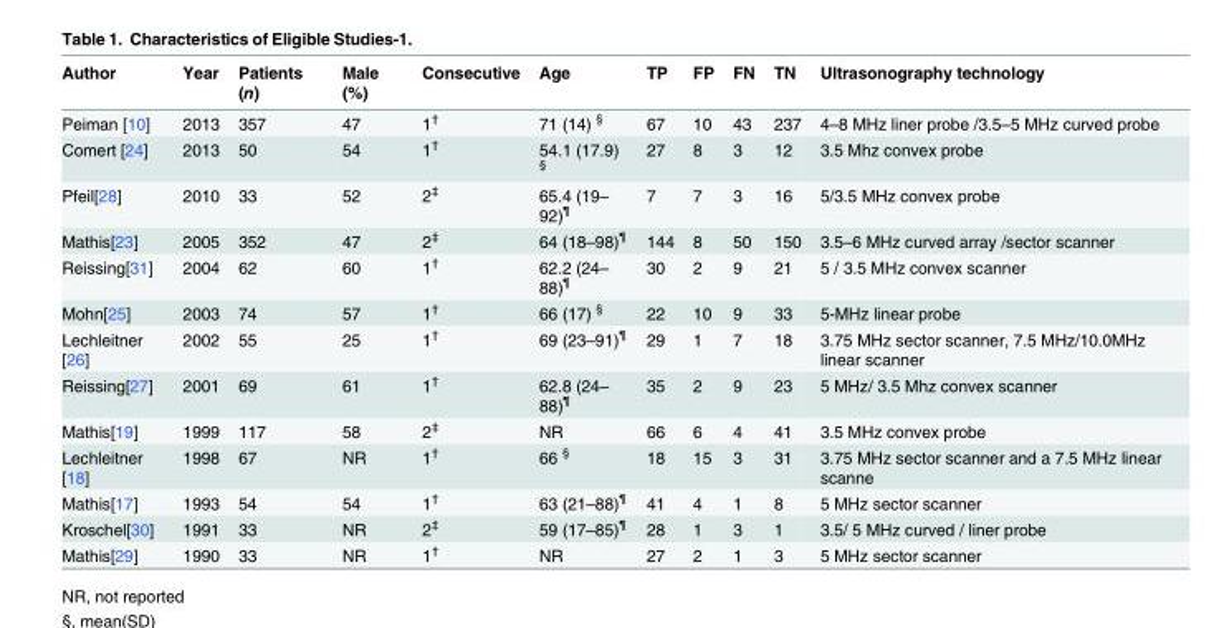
<table><thead><tr><td>Author</td><td>Year</td><td>Patients (n)</td><td>Male (%)</td><td>Consecutive</td><td>Age</td><td>TP</td><td>FP</td><td>FN</td><td>TN</td><td>Ultrasonography technology</td></tr></thead><tbody><tr><td>Peiman [10]</td><td>2013</td><td>357</td><td>47</td><td>1<sup>†</sup></td><td>71 (14) <sup>§</sup></td><td>67</td><td>10</td><td>43</td><td>237</td><td>4–8 MHz liner probe /3.5–5 MHz curved probe</td></tr><tr><td>Comert [24]</td><td>2013</td><td>50</td><td>54</td><td>1<sup>†</sup></td><td>54.1 (17.9) <sup>§</sup></td><td>27</td><td>8</td><td>3</td><td>12</td><td>3.5 Mhz convex probe</td></tr><tr><td>Pfeil[28]</td><td>2010</td><td>33</td><td>52</td><td>2<sup>‡</sup></td><td>65.4 (19– 92)<sup>¶</sup></td><td>7</td><td>7</td><td>3</td><td>16</td><td>5/3.5 MHz convex probe</td></tr><tr><td>Mathis[23]</td><td>2005</td><td>352</td><td>47</td><td>2<sup>‡</sup></td><td>64 (18–98)<sup>¶</sup></td><td>144</td><td>8</td><td>50</td><td>150</td><td>3.5–6 MHz curved array /sector scanner</td></tr><tr><td>Reissing[31]</td><td>2004</td><td>62</td><td>60</td><td>1<sup>†</sup></td><td>62.2 (24– 88)<sup>¶</sup></td><td>30</td><td>2</td><td>9</td><td>21</td><td>5 / 3.5 MHz convex scanner</td></tr><tr><td>Mohn[25]</td><td>2003</td><td>74</td><td>57</td><td>1<sup>†</sup></td><td>66 (17) <sup>§</sup></td><td>22</td><td>10</td><td>9</td><td>33</td><td>5-MHz linear probe</td></tr><tr><td>Lechleitner [26]</td><td>2002</td><td>55</td><td>25</td><td>1<sup>†</sup></td><td>69 (23–91)<sup>¶</sup></td><td>29</td><td>1</td><td>7</td><td>18</td><td>3.75 MHz sector scanner, 7.5 MHz/10.0MHz linear scanner</td></tr><tr><td>Reissing[27]</td><td>2001</td><td>69</td><td>61</td><td>1<sup>†</sup></td><td>62.8 (24– 88)<sup>¶</sup></td><td>35</td><td>2</td><td>9</td><td>23</td><td>5 MHz/ 3.5 Mhz convex scanner</td></tr><tr><td>Mathis[19]</td><td>1999</td><td>117</td><td>58</td><td>2<sup>‡</sup></td><td>NR</td><td>66</td><td>6</td><td>4</td><td>41</td><td>3.5 MHz convex probe</td></tr><tr><td>Lechleitner [18]</td><td>1998</td><td>67</td><td>NR</td><td>1<sup>†</sup></td><td>66 <sup>§</sup></td><td>18</td><td>15</td><td>3</td><td>31</td><td>3.75 MHz sector scanner and a 7.5 MHz linear scanne</td></tr><tr><td>Mathis[17]</td><td>1993</td><td>54</td><td>54</td><td>1<sup>†</sup></td><td>63 (21–88)<sup>¶</sup></td><td>41</td><td>4</td><td>1</td><td>8</td><td>5 MHz sector scanner</td></tr><tr><td>Kroschel[30]</td><td>1991</td><td>33</td><td>NR</td><td>2<sup>‡</sup></td><td>59 (17–85)<sup>¶</sup></td><td>28</td><td>1</td><td>3</td><td>1</td><td>3.5/ 5 MHz curved / liner probe</td></tr><tr><td>Mathis[29]</td><td>1990</td><td>33</td><td>NR</td><td>1<sup>†</sup></td><td>NR</td><td>27</td><td>2</td><td>1</td><td>3</td><td>5 MHz sector scanner</td></tr></tbody></table>